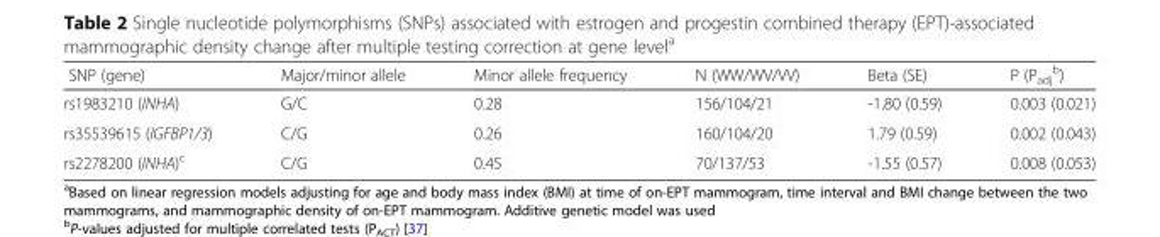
<table><thead><tr><td>SNP (gene)</td><td>Major/minor allele</td><td>Minor allele frequency</td><td>N (WW/WV/VV)</td><td>Beta (SE)</td><td>P (P<sub>adj</sub> <sup>b</sup>)</td></tr></thead><tbody><tr><td>rs1983210 (INHA)</td><td>G/C</td><td>0.28</td><td>156/104/21</td><td>-1.80 (0.59)</td><td>0.003 (0.021)</td></tr><tr><td>rs35539615 (IGFBP1/3)</td><td>C/G</td><td>0.26</td><td>160/104/20</td><td>1.79 (0.59)</td><td>0.002 (0.043)</td></tr><tr><td>rs2278200 (INHA)<sup>c</sup></td><td>C/G</td><td>0.45</td><td>70/137/53</td><td>-1.55 (0.57)</td><td>0.008 (0.053)</td></tr></tbody></table>